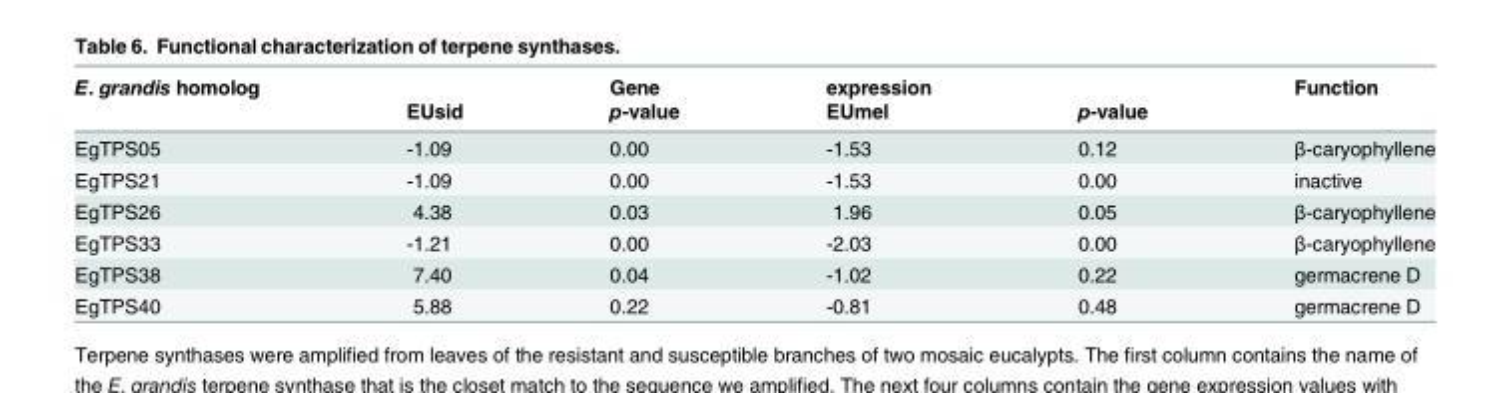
<table><thead><tr><td rowspan="2">E. grandis homolog</td><td rowspan="2">EUsid</td><td rowspan="2">Gene p-value</td><td rowspan="2">expression EUmel</td><td rowspan="2">p-value</td><td rowspan="2">Function</td></tr><tr></tr></thead><tbody><tr><td>EgTPS05</td><td>-1.09</td><td>0.00</td><td>-1.53</td><td>0.12</td><td>β-caryophyllene</td></tr><tr><td>EgTPS21</td><td>-1.09</td><td>0.00</td><td>-1.53</td><td>0.00</td><td>inactive</td></tr><tr><td>EgTPS26</td><td>4.38</td><td>0.03</td><td>1.96</td><td>0.05</td><td>β-caryophyllene</td></tr><tr><td>EgTPS33</td><td>-1.21</td><td>0.00</td><td>-2.03</td><td>0.00</td><td>β-caryophyllene</td></tr><tr><td>EgTPS38</td><td>7.40</td><td>0.04</td><td>-1.02</td><td>0.22</td><td>germacrene D</td></tr><tr><td>EgTPS40</td><td>5.88</td><td>0.22</td><td>-0.81</td><td>0.48</td><td>germacrene D</td></tr></tbody></table>